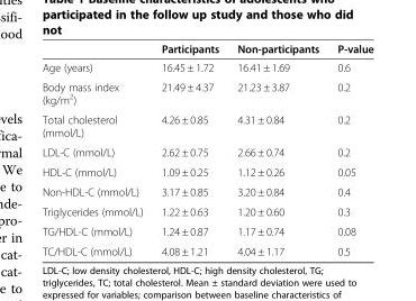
<table><thead><tr><td></td><td>Participants</td><td>Non-participants</td><td>P-value</td></tr></thead><tbody><tr><td>Age (years)</td><td>16.45 ± 1.72</td><td>16.41 ± 1.69</td><td>0.6</td></tr><tr><td>Body mass index (kg/m<sup>2</sup>)</td><td>21.49 ± 4.37</td><td>21.23 ± 3.87</td><td>0.2</td></tr><tr><td>Total cholesterol (mmol/L)</td><td>4.26 ± 0.85</td><td>4.31 ± 0.84</td><td>0.2</td></tr><tr><td>LDL-C (mmol/L)</td><td>2.62 ± 0.75</td><td>2.66 ± 0.74</td><td>0.2</td></tr><tr><td>HDL-C (mmol/L)</td><td>1.09 ± 0.25</td><td>1.12 ± 0.26</td><td>0.05</td></tr><tr><td>Non-HDL-C (mmol/L)</td><td>3.17 ± 0.85</td><td>3.20 ± 0.84</td><td>0.4</td></tr><tr><td>Triglycerides (mmol/L)</td><td>1.22 ± 0.63</td><td>1.20 ± 0.60</td><td>0.3</td></tr><tr><td>TG/HDL-C (mmol/L)</td><td>1.24 ± 0.87</td><td>1.17 ± 0.74</td><td>0.08</td></tr><tr><td>TC/HDL-C (mmol/L)</td><td>4.08 ± 1.21</td><td>4.04 ± 1.17</td><td>0.5</td></tr></tbody></table>